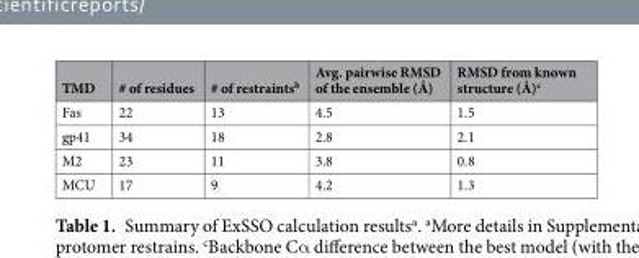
<table><thead><tr><td>TMD</td><td># of residues</td><td># of restraints<sup>b</sup></td><td>Avg. pairwise RMSD of the ensemble (Å)</td><td>RMSD from known structure (Å)<sup>c</sup></td></tr></thead><tbody><tr><td>Fas</td><td>22</td><td>13</td><td>4.5</td><td>1.5</td></tr><tr><td>gp41</td><td>34</td><td>18</td><td>2.8</td><td>2.1</td></tr><tr><td>M2</td><td>23</td><td>11</td><td>3.8</td><td>0.8</td></tr><tr><td>MCU</td><td>17</td><td>9</td><td>4.2</td><td>1.3</td></tr></tbody></table>